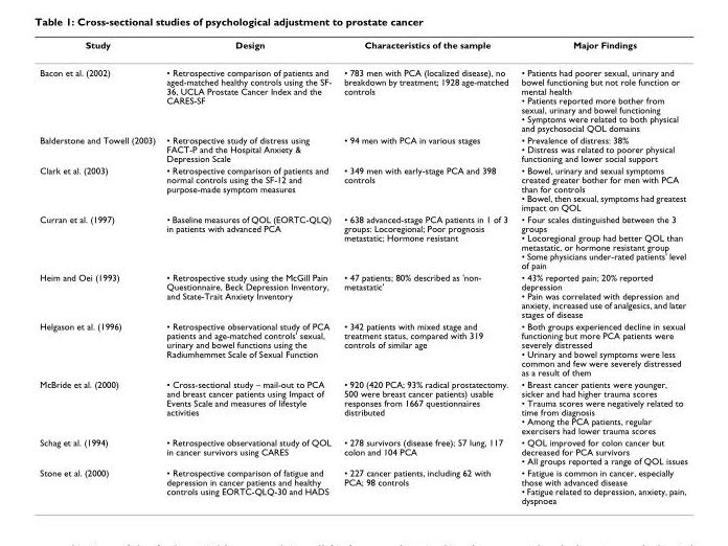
<table><thead><tr><td>Study</td><td>Design</td><td>Characteristics of the sample</td><td>Major Findings</td></tr></thead><tbody><tr><td>Bacon et al. (2002)</td><td>• Retrospective comparison of patients and aged-matched healthy controls using the SF- 36, UCLA Prostate Cancer Index and the CARES-SF</td><td>• 783 men with PCA (localized disease), no breakdown by treatment; 1928 age-matched controls</td><td>• Patients had poorer sexual, urinary and bowel functioning but not role function or mental health • Patients reported more bother from sexual, urinary and bowel functioning • Symptoms were related to both physical and psychosocial QOL domains</td></tr><tr><td>Balderstone and Towell (2003)</td><td>• Retrospective study of distress using FACT-P and the Hospital Anxiety &amp; Depression Scale</td><td>• 94 men with PCA in various stages</td><td>• Prevalence of distress: 38% • Distress was related to poorer physical functioning and lower social support</td></tr><tr><td>Clark et al. (2003)</td><td>• Retrospective comparison of patients and normal controls using the SF-12 and purpose-made symptom measures</td><td>• 349 men with early-stage PCA and 398 controls</td><td>• Bowel, urinary and sexual symptoms created greater bother for men with PCA than for controls • Bowel, then sexual, symptoms had greatest impact on QOL</td></tr><tr><td>Curran et al. (1997)</td><td>• Baseline measures of QOL (EORTC-QLQ) in patients with advanced PCA</td><td>• 638 advanced-stage PCA patients in 1 of 3 groups: Locoregional; Poor prognosis metastatic; Hormone resistant</td><td>• Four scales distinguished between the 3 groups • Locoregional group had better QOL than metastatic, or hormone resistant group • Some physicians under-rated patients&#x27; level of pain</td></tr><tr><td>Heim and Oei (1993)</td><td>• Retrospective study using the McGill Pain Questionnaire, Beck Depression Inventory, and State-Trait Anxiety Inventory</td><td>• 47 patients; 80% described as &#x27;non- metastatic&#x27;</td><td>• 43% reported pain; 20% reported depression • Pain was correlated with depression and anxiety, increased use of analgesics, and later stages of disease</td></tr><tr><td>Helgason et al. (1996)</td><td>• Retrospective observational study of PCA patients and age-matched controls&#x27; sexual, urinary and bowel functions using the Radiumhemmet Scale of Sexual Function</td><td>• 342 patients with mixed stage and treatment status, compared with 319 controls of similar age</td><td>• Both groups experienced decline in sexual functioning but more PCA patients were severely distressed • Urinary and bowel symptoms were less common and few were severely distressed as a result of them</td></tr><tr><td>McBride et al. (2000)</td><td>• Cross-sectional study – mail-out to PCA and breast cancer patients using Impact of Events Scale and measures of lifestyle activities</td><td>• 920 (420 PCA; 93% radical prostatectomy. 500 were breast cancer patients) usable responses from 1667 questionnaires distributed</td><td>• Breast cancer patients were younger, sicker and had higher trauma scores • Trauma scores were negatively related to time from diagnosis • Among the PCA patients, regular exercisers had lower trauma scores</td></tr><tr><td>Schag et al. (1994)</td><td>• Retrospective observational study of QOL in cancer survivors using CARES</td><td>• 278 survivors (disease free); 57 lung, 117 colon and 104 PCA</td><td>• QOL improved for colon cancer but decreased for PCA survivors • All groups reported a range of QOL issues</td></tr><tr><td>Stone et al. (2000)</td><td>• Retrospective comparison of fatigue and depression in cancer patients and healthy controls using EORTC-QLQ-30 and HADS</td><td>• 227 cancer patients, including 62 with PCA; 98 controls</td><td>• Fatigue is common in cancer, especially those with advanced disease • Fatigue related to depression, anxiety, pain, dyspnoea</td></tr></tbody></table>